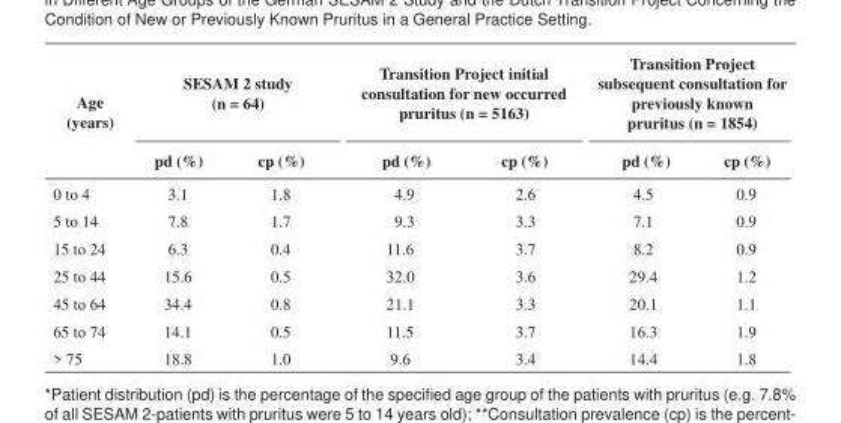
<table><thead><tr><td rowspan="2">Age (years)</td><td colspan="2">SESAM 2 study (n = 64)</td><td colspan="2">Transition Project initial consultation for new occurred pruritus (n = 5163)</td><td colspan="2">Transition Project subsequent consultation for previously known pruritus (n = 1854)</td></tr><tr><td>pd (%)</td><td>cp (%)</td><td>pd (%)</td><td>cp (%)</td><td>pd (%)</td><td>cp (%)</td></tr></thead><tbody><tr><td>0 to 4</td><td>3.1</td><td>1.8</td><td>4.9</td><td>2.6</td><td>4.5</td><td>0.9</td></tr><tr><td>5 to 14</td><td>7.8</td><td>1.7</td><td>9.3</td><td>3.3</td><td>7.1</td><td>0.9</td></tr><tr><td>15 to 24</td><td>6.3</td><td>0.4</td><td>11.6</td><td>3.7</td><td>8.2</td><td>0.9</td></tr><tr><td>25 to 44</td><td>15.6</td><td>0.5</td><td>32.0</td><td>3.6</td><td>29.4</td><td>1.2</td></tr><tr><td>45 to 64</td><td>34.4</td><td>0.8</td><td>21.1</td><td>3.3</td><td>20.1</td><td>1.1</td></tr><tr><td>65 to 74</td><td>14.1</td><td>0.5</td><td>11.5</td><td>3.7</td><td>16.3</td><td>1.9</td></tr><tr><td>&gt; 75</td><td>18.8</td><td>1.0</td><td>9.6</td><td>3.4</td><td>14.4</td><td>1.8</td></tr></tbody></table>